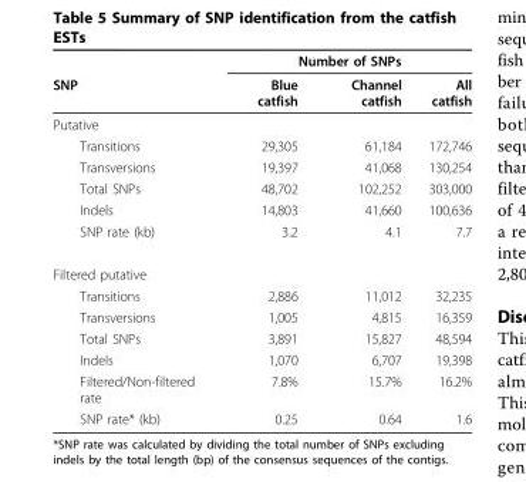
<table><thead><tr><td rowspan="2">SNP</td><td colspan="3">Number of SNPs</td></tr><tr><td>Blue catfish</td><td>Channel catfish</td><td>All catfish</td></tr></thead><tbody><tr><td colspan="4">Putative</td></tr><tr><td>Transitions</td><td>29,305</td><td>61,184</td><td>172,746</td></tr><tr><td>Transversions</td><td>19,397</td><td>41,068</td><td>130,254</td></tr><tr><td>Total SNPs</td><td>48,702</td><td>102,252</td><td>303,000</td></tr><tr><td>Indels</td><td>14,803</td><td>41,660</td><td>100,636</td></tr><tr><td>SNP rate (kb)</td><td>3.2</td><td>4.1</td><td>7.7</td></tr><tr><td colspan="4">Filtered putative</td></tr><tr><td>Transitions</td><td>2,886</td><td>11,012</td><td>32,235</td></tr><tr><td>Transversions</td><td>1,005</td><td>4,815</td><td>16,359</td></tr><tr><td>Total SNPs</td><td>3,891</td><td>15,827</td><td>48,594</td></tr><tr><td>Indels</td><td>1,070</td><td>6,707</td><td>19,398</td></tr><tr><td>Filtered/Non-filtered rate</td><td>7.8%</td><td>15.7%</td><td>16.2%</td></tr><tr><td>SNP rate* (kb)</td><td>0.25</td><td>0.64</td><td>1.6</td></tr></tbody></table>